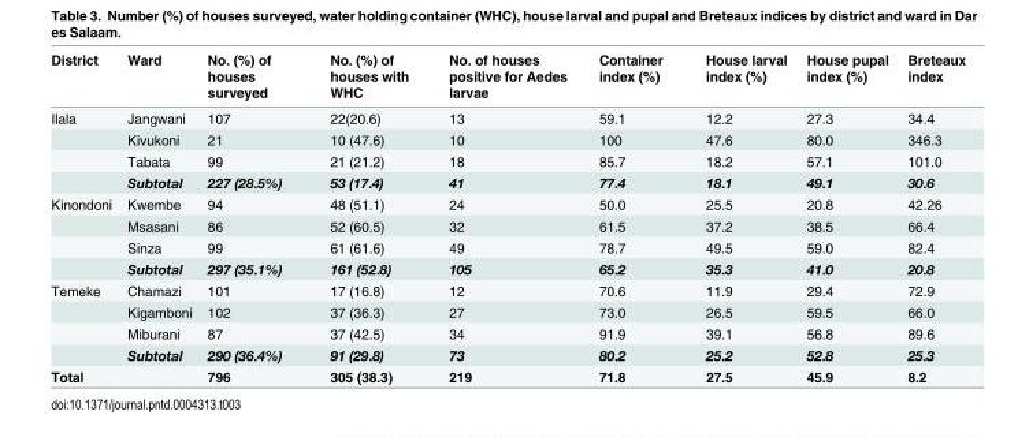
<table><thead><tr><td>District</td><td>Ward</td><td>No. (%) of houses surveyed</td><td>No. (%) of houses with WHC</td><td>No. of houses positive for Aedes larvae</td><td>Container index (%)</td><td>House larval index (%)</td><td>House pupal index (%)</td><td>Breteaux index</td></tr></thead><tbody><tr><td rowspan="4">Ilala</td><td>Jangwani</td><td>107</td><td>22(20.6)</td><td>13</td><td>59.1</td><td>12.2</td><td>27.3</td><td>34.4</td></tr><tr><td>Kivukoni</td><td>21</td><td>10 (47.6)</td><td>10</td><td>100</td><td>47.6</td><td>80.0</td><td>346.3</td></tr><tr><td>Tabata</td><td>99</td><td>21 (21.2)</td><td>18</td><td>85.7</td><td>18.2</td><td>57.1</td><td>101.0</td></tr><tr><td>Subtotal</td><td>227 (28.5%)</td><td>53 (17.4)</td><td>41</td><td>77.4</td><td>18.1</td><td>49.1</td><td>30.6</td></tr><tr><td rowspan="4">Kinondoni</td><td>Kwembe</td><td>94</td><td>48 (51.1)</td><td>24</td><td>50.0</td><td>25.5</td><td>20.8</td><td>42.26</td></tr><tr><td>Msasani</td><td>86</td><td>52 (60.5)</td><td>32</td><td>61.5</td><td>37.2</td><td>38.5</td><td>66.4</td></tr><tr><td>Sinza</td><td>99</td><td>61 (61.6)</td><td>49</td><td>78.7</td><td>49.5</td><td>59.0</td><td>82.4</td></tr><tr><td>Subtotal</td><td>297 (35.1%)</td><td>161 (52.8)</td><td>105</td><td>65.2</td><td>35.3</td><td>41.0</td><td>20.8</td></tr><tr><td rowspan="4">Temeke</td><td>Chamazi</td><td>101</td><td>17 (16.8)</td><td>12</td><td>70.6</td><td>11.9</td><td>29.4</td><td>72.9</td></tr><tr><td>Kigamboni</td><td>102</td><td>37 (36.3)</td><td>27</td><td>73.0</td><td>26.5</td><td>59.5</td><td>66.0</td></tr><tr><td>Miburani</td><td>87</td><td>37 (42.5)</td><td>34</td><td>91.9</td><td>39.1</td><td>56.8</td><td>89.6</td></tr><tr><td>Subtotal</td><td>290 (36.4%)</td><td>91 (29.8)</td><td>73</td><td>80.2</td><td>25.2</td><td>52.8</td><td>25.3</td></tr><tr><td>Total</td><td></td><td>796</td><td>305 (38.3)</td><td>219</td><td>71.8</td><td>27.5</td><td>45.9</td><td>8.2</td></tr></tbody></table>